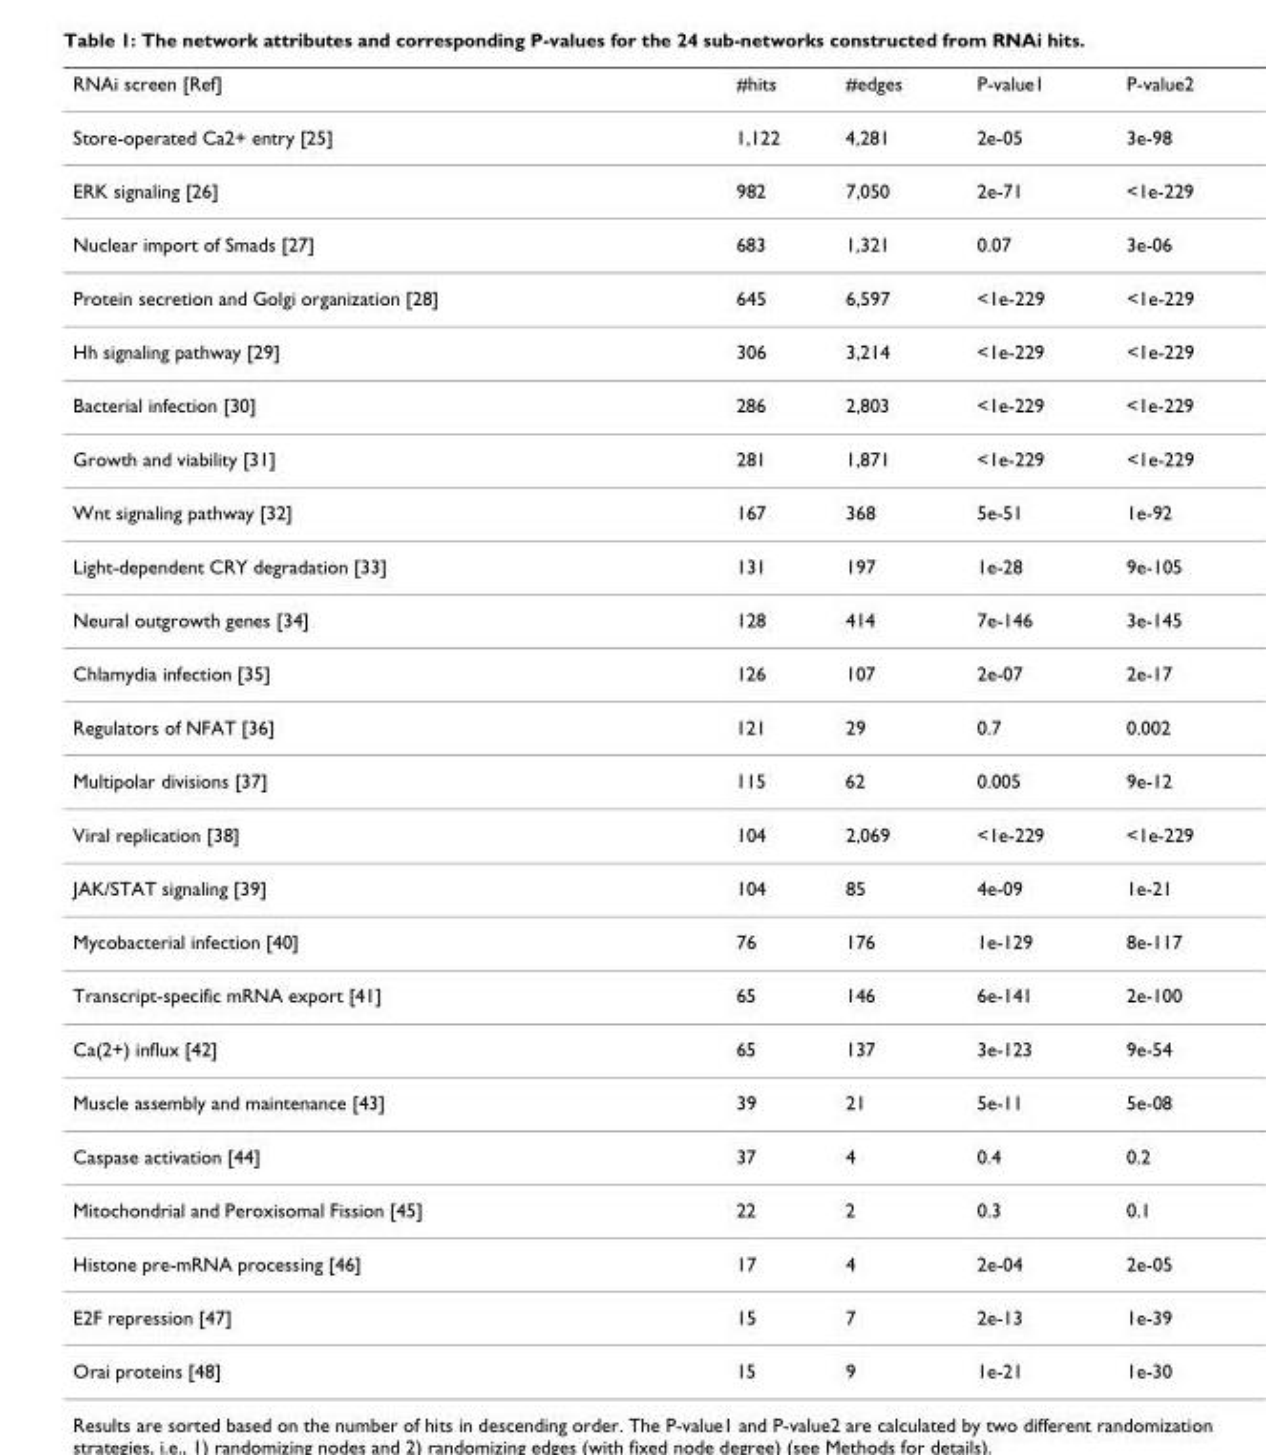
<table><thead><tr><td>RNAi screen [Ref]</td><td>#hits</td><td>#edges</td><td>P-value1</td><td>P-value2</td></tr></thead><tbody><tr><td>Store-operated Ca2+ entry [25]</td><td>1,122</td><td>4,281</td><td>2e-05</td><td>3e-98</td></tr><tr><td>ERK signaling [26]</td><td>982</td><td>7,050</td><td>2e-71</td><td>&lt;1e-229</td></tr><tr><td>Nuclear import of Smads [27]</td><td>683</td><td>1,321</td><td>0.07</td><td>3e-06</td></tr><tr><td>Protein secretion and Golgi organization [28]</td><td>645</td><td>6,597</td><td>&lt;1e-229</td><td>&lt;1e-229</td></tr><tr><td>Hh signaling pathway [29]</td><td>306</td><td>3,214</td><td>&lt;1e-229</td><td>&lt;1e-229</td></tr><tr><td>Bacterial infection [30]</td><td>286</td><td>2,803</td><td>&lt;1e-229</td><td>&lt;1e-229</td></tr><tr><td>Growth and viability [31]</td><td>281</td><td>1,871</td><td>&lt;1e-229</td><td>&lt;1e-229</td></tr><tr><td>Wnt signaling pathway [32]</td><td>167</td><td>368</td><td>5e-51</td><td>1e-92</td></tr><tr><td>Light-dependent CRY degradation [33]</td><td>131</td><td>197</td><td>1e-28</td><td>9e-105</td></tr><tr><td>Neural outgrowth genes [34]</td><td>128</td><td>414</td><td>7e-146</td><td>3e-145</td></tr><tr><td>Chlamydia infection [35]</td><td>126</td><td>107</td><td>2e-07</td><td>2e-17</td></tr><tr><td>Regulators of NFAT [36]</td><td>121</td><td>29</td><td>0.7</td><td>0.002</td></tr><tr><td>Multipolar divisions [37]</td><td>115</td><td>62</td><td>0.005</td><td>9e-12</td></tr><tr><td>Viral replication [38]</td><td>104</td><td>2,069</td><td>&lt;1e-229</td><td>&lt;1e-229</td></tr><tr><td>JAK/STAT signaling [39]</td><td>104</td><td>85</td><td>4e-09</td><td>1e-21</td></tr><tr><td>Mycobacterial infection [40]</td><td>76</td><td>176</td><td>1e-129</td><td>8e-117</td></tr><tr><td>Transcript-specific mRNA export [41]</td><td>65</td><td>146</td><td>6e-141</td><td>2e-100</td></tr><tr><td>Ca(2+) influx [42]</td><td>65</td><td>137</td><td>3e-123</td><td>9e-54</td></tr><tr><td>Muscle assembly and maintenance [43]</td><td>39</td><td>21</td><td>5e-11</td><td>5e-08</td></tr><tr><td>Caspase activation [44]</td><td>37</td><td>4</td><td>0.4</td><td>0.2</td></tr><tr><td>Mitochondrial and Peroxisomal Fission [45]</td><td>22</td><td>2</td><td>0.3</td><td>0.1</td></tr><tr><td>Histone pre-mRNA processing [46]</td><td>17</td><td>4</td><td>2e-04</td><td>2e-05</td></tr><tr><td>E2F repression [47]</td><td>15</td><td>7</td><td>2e-13</td><td>1e-39</td></tr><tr><td>Orai proteins [48]</td><td>15</td><td>9</td><td>1e-21</td><td>1e-30</td></tr></tbody></table>